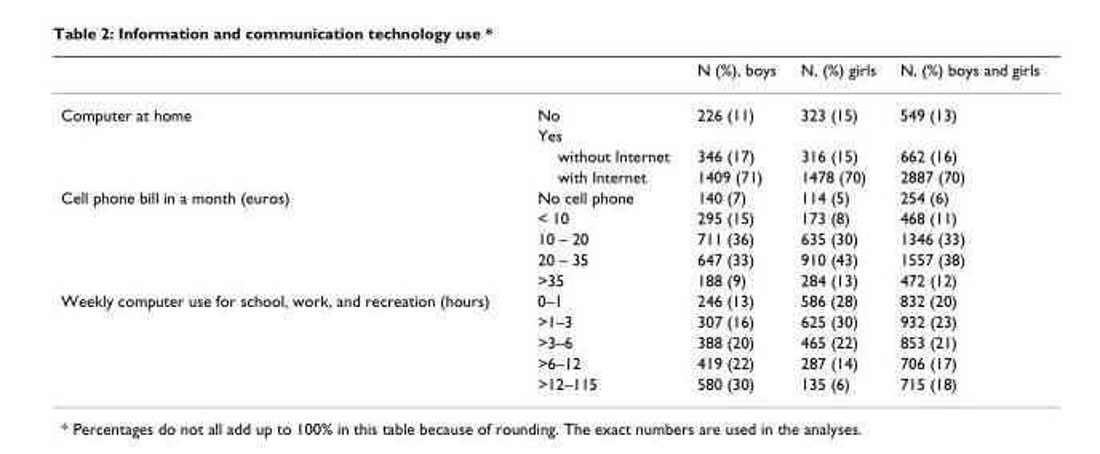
<table><thead><tr><td></td><td></td><td>N (%), boys</td><td>N, (%) girls</td><td>N, (%) boys and girls</td></tr></thead><tbody><tr><td rowspan="4">Computer at home</td><td>No</td><td>226 (11)</td><td>323 (15)</td><td>549 (13)</td></tr><tr><td>Yes</td><td></td><td></td><td></td></tr><tr><td>without Internet</td><td>346 (17)</td><td>316 (15)</td><td>662 (16)</td></tr><tr><td>with Internet</td><td>1409 (71)</td><td>1478 (70)</td><td>2887 (70)</td></tr><tr><td rowspan="5">Cell phone bill in a month (euros)</td><td>No cell phone</td><td>140 (7)</td><td>114 (5)</td><td>254 (6)</td></tr><tr><td>&lt; 10</td><td>295 (15)</td><td>173 (8)</td><td>468 (11)</td></tr><tr><td>10 – 20</td><td>711 (36)</td><td>635 (30)</td><td>1346 (33)</td></tr><tr><td>20 – 35</td><td>647 (33)</td><td>910 (43)</td><td>1557 (38)</td></tr><tr><td>&gt;35</td><td>188 (9)</td><td>284 (13)</td><td>472 (12)</td></tr><tr><td rowspan="5">Weekly computer use for school, work, and recreation (hours)</td><td>0–1</td><td>246 (13)</td><td>586 (28)</td><td>832 (20)</td></tr><tr><td>&gt;1–3</td><td>307 (16)</td><td>625 (30)</td><td>932 (23)</td></tr><tr><td>&gt;3–6</td><td>388 (20)</td><td>465 (22)</td><td>853 (21)</td></tr><tr><td>&gt;6–12</td><td>419 (22)</td><td>287 (14)</td><td>706 (17)</td></tr><tr><td>&gt;12–115</td><td>580 (30)</td><td>135 (6)</td><td>715 (18)</td></tr></tbody></table>